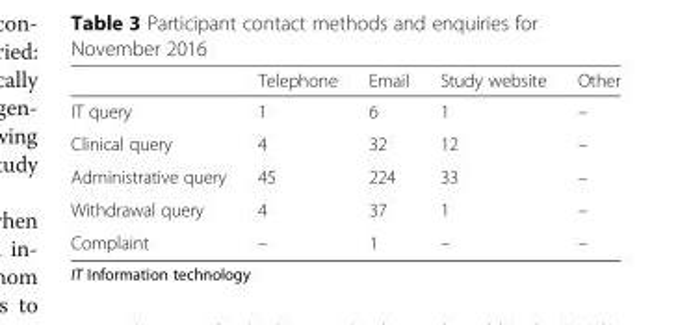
<table><thead><tr><td></td><td>Telephone</td><td>Email</td><td>Study website</td><td>Other</td></tr></thead><tbody><tr><td>IT query</td><td>1</td><td>6</td><td>1</td><td>–</td></tr><tr><td>Clinical query</td><td>4</td><td>32</td><td>12</td><td>–</td></tr><tr><td>Administrative query</td><td>45</td><td>224</td><td>33</td><td>–</td></tr><tr><td>Withdrawal query</td><td>4</td><td>37</td><td>1</td><td>–</td></tr><tr><td>Complaint</td><td>–</td><td>1</td><td>–</td><td>–</td></tr></tbody></table>